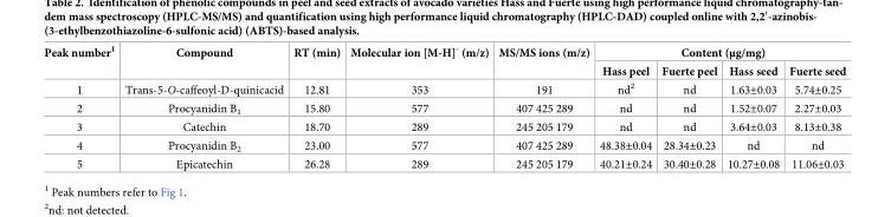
<table><thead><tr><td rowspan="2">Peak number<sup>1</sup></td><td rowspan="2">Compound</td><td rowspan="2">RT (min)</td><td rowspan="2">Molecular ion [M-H]<sup>-</sup> (m/z)</td><td rowspan="2">MS/MS ions (m/z)</td><td colspan="4">Content (μg/mg)</td></tr><tr><td>Hass peel</td><td>Fuerte peel</td><td>Hass seed</td><td>Fuerte seed</td></tr></thead><tbody><tr><td>1</td><td>Trans-5-O-caffeoyl-D-quinicacid</td><td>12.81</td><td>353</td><td>191</td><td>nd<sup>2</sup></td><td>nd</td><td>1.63±0.03</td><td>5.74±0.25</td></tr><tr><td>2</td><td>Procyanidin B<sub>1</sub></td><td>15.80</td><td>577</td><td>407 425 289</td><td>nd</td><td>nd</td><td>1.52±0.07</td><td>2.27±0.03</td></tr><tr><td>3</td><td>Catechin</td><td>18.70</td><td>289</td><td>245 205 179</td><td>nd</td><td>nd</td><td>3.64±0.03</td><td>8.13±0.38</td></tr><tr><td>4</td><td>Procyanidin B<sub>2</sub></td><td>23.00</td><td>577</td><td>407 425 289</td><td>48.38±0.04</td><td>28.34±0.23</td><td>nd</td><td>nd</td></tr><tr><td>5</td><td>Epicatechin</td><td>26.28</td><td>289</td><td>245 205 179</td><td>40.21±0.24</td><td>30.40±0.28</td><td>10.27±0.08</td><td>11.06±0.03</td></tr></tbody></table>